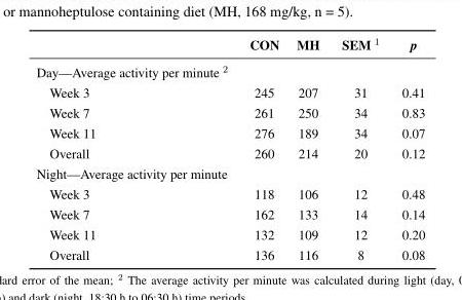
<table><thead><tr><td></td><td>CON</td><td>MH</td><td>SEM <sup>1</sup></td><td>p</td></tr></thead><tbody><tr><td colspan="5">Day—Average activity per minute <sup>2</sup></td></tr><tr><td>Week 3</td><td>245</td><td>207</td><td>31</td><td>0.41</td></tr><tr><td>Week 7</td><td>261</td><td>250</td><td>34</td><td>0.83</td></tr><tr><td>Week 11</td><td>276</td><td>189</td><td>34</td><td>0.07</td></tr><tr><td>Overall</td><td>260</td><td>214</td><td>20</td><td>0.12</td></tr><tr><td colspan="5">Night—Average activity per minute</td></tr><tr><td>Week 3</td><td>118</td><td>106</td><td>12</td><td>0.48</td></tr><tr><td>Week 7</td><td>162</td><td>133</td><td>14</td><td>0.14</td></tr><tr><td>Week 11</td><td>132</td><td>109</td><td>12</td><td>0.20</td></tr><tr><td>Overall</td><td>136</td><td>116</td><td>8</td><td>0.08</td></tr></tbody></table>